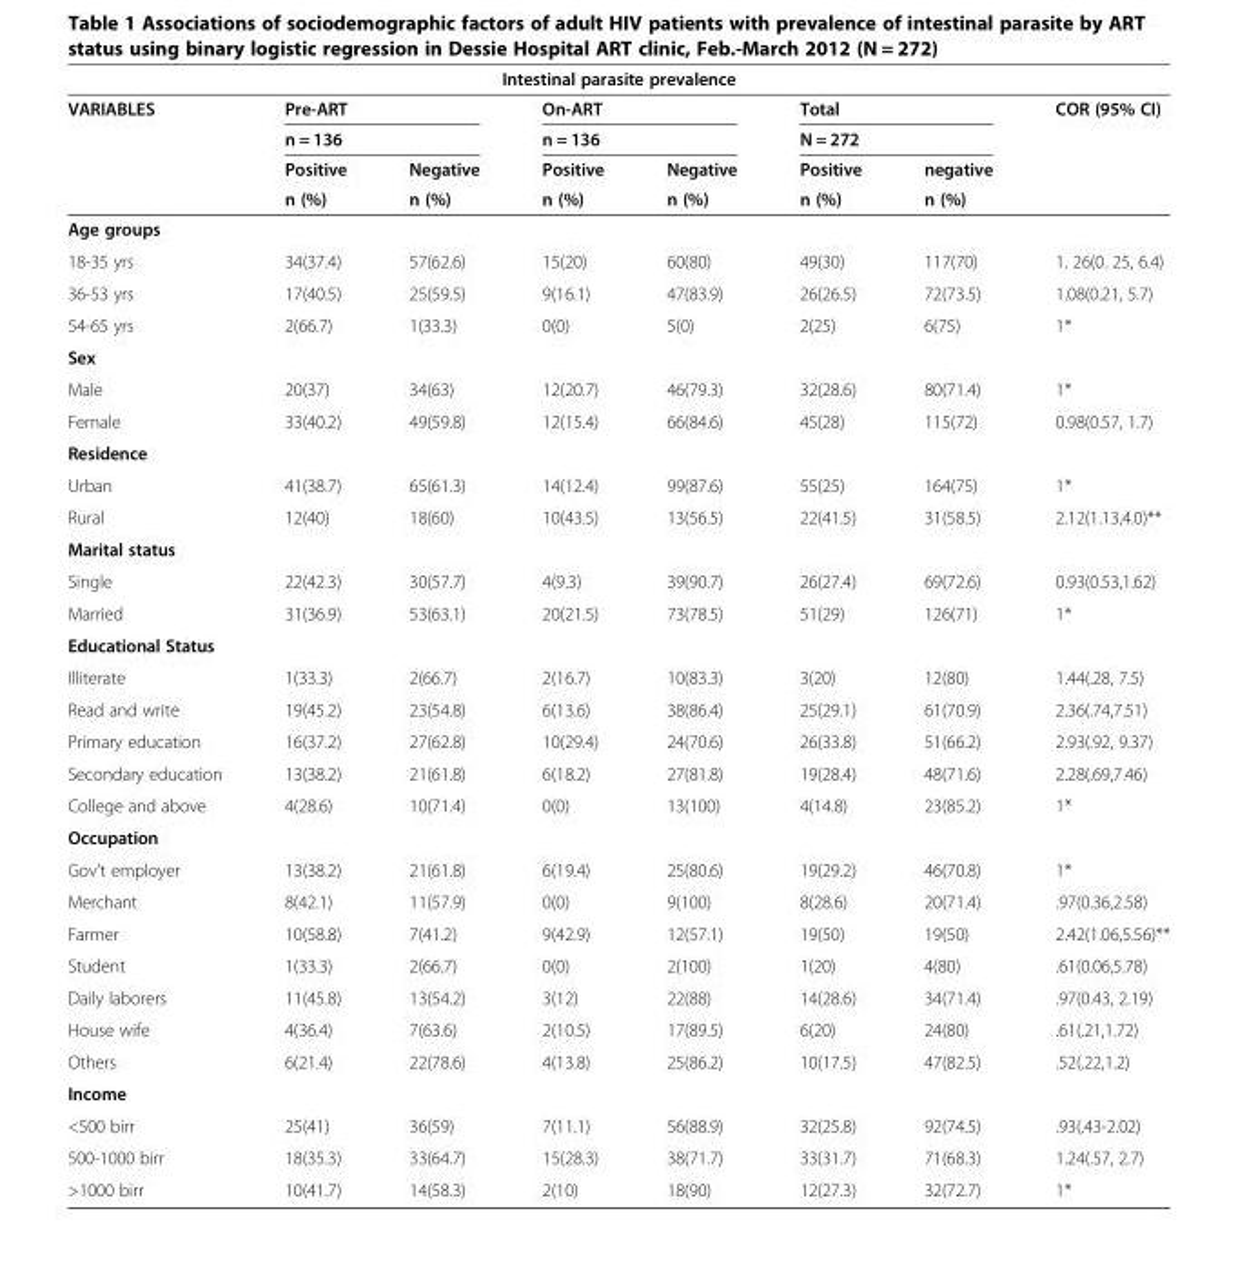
<table><thead><tr><td colspan="8">Intestinal parasite prevalence</td></tr><tr><td rowspan="4">VARIABLES</td><td rowspan="2" colspan="2">Pre-ART n = 136</td><td rowspan="2" colspan="2">On-ART n = 136</td><td rowspan="2" colspan="2">Total N = 272</td><td rowspan="4">COR (95% CI)</td></tr><tr></tr><tr><td rowspan="2">Positive n (%)</td><td rowspan="2">Negative n (%)</td><td rowspan="2">Positive n (%)</td><td rowspan="2">Negative n (%)</td><td rowspan="2">Positive n (%)</td><td rowspan="2">negative n (%)</td></tr><tr></tr></thead><tbody><tr><td colspan="8">Age groups</td></tr><tr><td>18-35 yrs</td><td>34(37.4)</td><td>57(62.6)</td><td>15(20)</td><td>60(80)</td><td>49(30)</td><td>117(70)</td><td>1. 26(0. 25, 6.4)</td></tr><tr><td>36-53 yrs</td><td>17(40.5)</td><td>25(59.5)</td><td>9(16.1)</td><td>47(83.9)</td><td>26(26.5)</td><td>72(73.5)</td><td>1.08(0.21, 5.7)</td></tr><tr><td>54-65 yrs</td><td>2(66.7)</td><td>1(33.3)</td><td>0(0)</td><td>5(0)</td><td>2(25)</td><td>6(75)</td><td>1*</td></tr><tr><td colspan="8">Sex</td></tr><tr><td>Male</td><td>20(37)</td><td>34(63)</td><td>12(20.7)</td><td>46(79.3)</td><td>32(28.6)</td><td>80(71.4)</td><td>1*</td></tr><tr><td>Female</td><td>33(40.2)</td><td>49(59.8)</td><td>12(15.4)</td><td>66(84.6)</td><td>45(28)</td><td>115(72)</td><td>0.98(0.57, 1.7)</td></tr><tr><td colspan="8">Residence</td></tr><tr><td>Urban</td><td>41(38.7)</td><td>65(61.3)</td><td>14(12.4)</td><td>99(87.6)</td><td>55(25)</td><td>164(75)</td><td>1*</td></tr><tr><td>Rural</td><td>12(40)</td><td>18(60)</td><td>10(43.5)</td><td>13(56.5)</td><td>22(41.5)</td><td>31(58.5)</td><td>2.12(1.13,4.0)**</td></tr><tr><td colspan="8">Marital status</td></tr><tr><td>Single</td><td>22(42.3)</td><td>30(57.7)</td><td>4(9.3)</td><td>39(90.7)</td><td>26(27.4)</td><td>69(72.6)</td><td>0.93(0.53,1.62)</td></tr><tr><td>Married</td><td>31(36.9)</td><td>53(63.1)</td><td>20(21.5)</td><td>73(78.5)</td><td>51(29)</td><td>126(71)</td><td>1*</td></tr><tr><td colspan="8">Educational Status</td></tr><tr><td>Illiterate</td><td>1(33.3)</td><td>2(66.7)</td><td>2(16.7)</td><td>10(83.3)</td><td>3(20)</td><td>12(80)</td><td>1.44(.28, 7.5)</td></tr><tr><td>Read and write</td><td>19(45.2)</td><td>23(54.8)</td><td>6(13.6)</td><td>38(86.4)</td><td>25(29.1)</td><td>61(70.9)</td><td>2.36(.74,7.51)</td></tr><tr><td>Primary education</td><td>16(37.2)</td><td>27(62.8)</td><td>10(29.4)</td><td>24(70.6)</td><td>26(33.8)</td><td>51(66.2)</td><td>2.93(.92, 9.37)</td></tr><tr><td>Secondary education</td><td>13(38.2)</td><td>21(61.8)</td><td>6(18.2)</td><td>27(81.8)</td><td>19(28.4)</td><td>48(71.6)</td><td>2.28(.69,7.46)</td></tr><tr><td>College and above</td><td>4(28.6)</td><td>10(71.4)</td><td>0(0)</td><td>13(100)</td><td>4(14.8)</td><td>23(85.2)</td><td>1*</td></tr><tr><td colspan="8">Occupation</td></tr><tr><td>Gov’t employer</td><td>13(38.2)</td><td>21(61.8)</td><td>6(19.4)</td><td>25(80.6)</td><td>19(29.2)</td><td>46(70.8)</td><td>1*</td></tr><tr><td>Merchant</td><td>8(42.1)</td><td>11(57.9)</td><td>0(0)</td><td>9(100)</td><td>8(28.6)</td><td>20(71.4)</td><td>.97(0.36,2.58)</td></tr><tr><td>Farmer</td><td>10(58.8)</td><td>7(41.2)</td><td>9(42.9)</td><td>12(57.1)</td><td>19(50)</td><td>19(50)</td><td>2.42(1.06,5.56)**</td></tr><tr><td>Student</td><td>1(33.3)</td><td>2(66.7)</td><td>0(0)</td><td>2(100)</td><td>1(20)</td><td>4(80)</td><td>.61(0.06,5.78)</td></tr><tr><td>Daily laborers</td><td>11(45.8)</td><td>13(54.2)</td><td>3(12)</td><td>22(88)</td><td>14(28.6)</td><td>34(71.4)</td><td>.97(0.43, 2.19)</td></tr><tr><td>House wife</td><td>4(36.4)</td><td>7(63.6)</td><td>2(10.5)</td><td>17(89.5)</td><td>6(20)</td><td>24(80)</td><td>.61(.21,1.72)</td></tr><tr><td>Others</td><td>6(21.4)</td><td>22(78.6)</td><td>4(13.8)</td><td>25(86.2)</td><td>10(17.5)</td><td>47(82.5)</td><td>.52(.22,1.2)</td></tr><tr><td colspan="8">Income</td></tr><tr><td>&lt;500 birr</td><td>25(41)</td><td>36(59)</td><td>7(11.1)</td><td>56(88.9)</td><td>32(25.8)</td><td>92(74.5)</td><td>.93(.43-2.02)</td></tr><tr><td>500-1000 birr</td><td>18(35.3)</td><td>33(64.7)</td><td>15(28.3)</td><td>38(71.7)</td><td>33(31.7)</td><td>71(68.3)</td><td>1.24(.57, 2.7)</td></tr><tr><td>&gt;1000 birr</td><td>10(41.7)</td><td>14(58.3)</td><td>2(10)</td><td>18(90)</td><td>12(27.3)</td><td>32(72.7)</td><td>1*</td></tr></tbody></table>